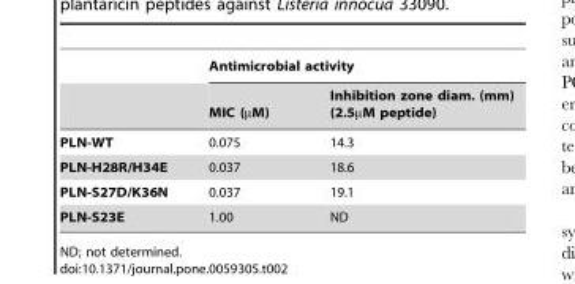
<table><thead><tr><td rowspan="2"></td><td colspan="2">Antimicrobial activity</td></tr><tr><td>MIC (µM)</td><td>Inhibition zone diam. (mm) (2.5µM peptide)</td></tr></thead><tbody><tr><td>PLN-WT</td><td>0.075</td><td>14.3</td></tr><tr><td>PLN-H28R/H34E</td><td>0.037</td><td>18.6</td></tr><tr><td>PLN-S27D/K36N</td><td>0.037</td><td>19.1</td></tr><tr><td>PLN-S23E</td><td>1.00</td><td>ND</td></tr></tbody></table>